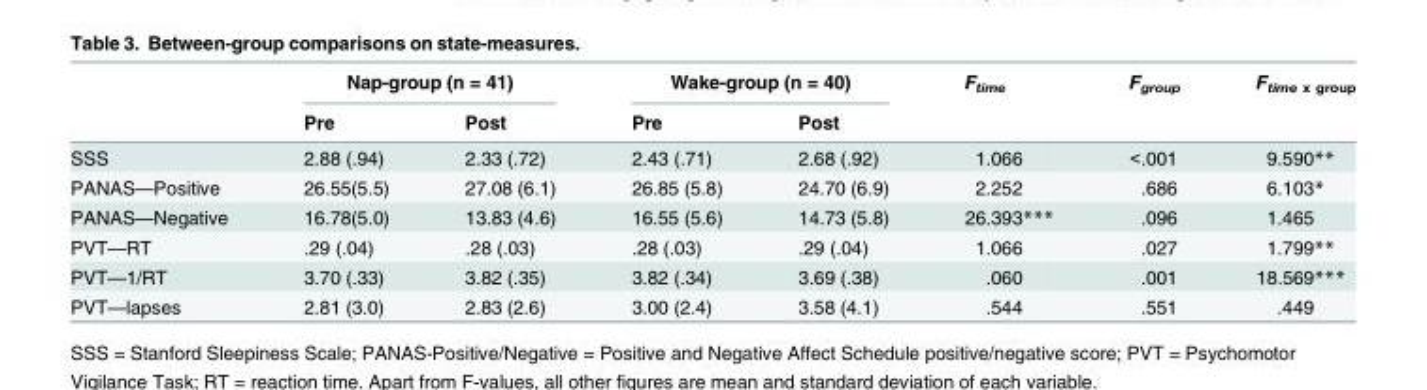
<table><thead><tr><td rowspan="2"></td><td colspan="2">Nap-group (n = 41)</td><td colspan="2">Wake-group (n = 40)</td><td rowspan="2">F<sub>time</sub></td><td rowspan="2">F<sub>group</sub></td><td rowspan="2">F<sub>time x group</sub></td></tr><tr><td>Pre</td><td>Post</td><td>Pre</td><td>Post</td></tr></thead><tbody><tr><td>SSS</td><td>2.88 (.94)</td><td>2.33 (.72)</td><td>2.43 (.71)</td><td>2.68 (.92)</td><td>1.066</td><td>&lt;.001</td><td>9.590**</td></tr><tr><td>PANAS—Positive</td><td>26.55(5.5)</td><td>27.08 (6.1)</td><td>26.85 (5.8)</td><td>24.70 (6.9)</td><td>2.252</td><td>.686</td><td>6.103*</td></tr><tr><td>PANAS—Negative</td><td>16.78(5.0)</td><td>13.83 (4.6)</td><td>16.55 (5.6)</td><td>14.73 (5.8)</td><td>26.393***</td><td>.096</td><td>1.465</td></tr><tr><td>PVT—RT</td><td>.29 (.04)</td><td>.28 (.03)</td><td>.28 (.03)</td><td>.29 (.04)</td><td>1.066</td><td>.027</td><td>1.799**</td></tr><tr><td>PVT—1/RT</td><td>3.70 (.33)</td><td>3.82 (.35)</td><td>3.82 (.34)</td><td>3.69 (.38)</td><td>.060</td><td>.001</td><td>18.569***</td></tr><tr><td>PVT—lapses</td><td>2.81 (3.0)</td><td>2.83 (2.6)</td><td>3.00 (2.4)</td><td>3.58 (4.1)</td><td>.544</td><td>.551</td><td>.449</td></tr></tbody></table>